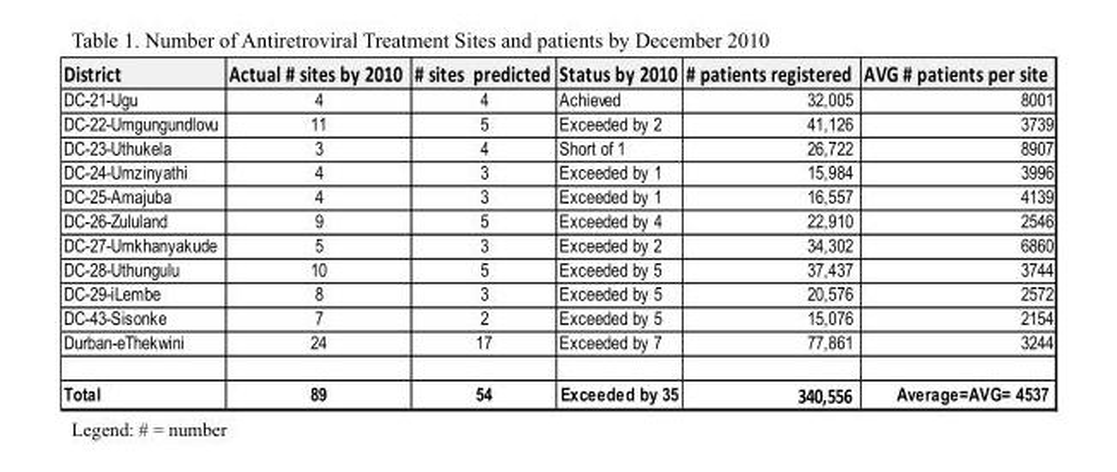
<table><thead><tr><td>District</td><td>Actual # sites by 2010</td><td># sites predicted</td><td>Status by 2010</td><td># patients registered</td><td>AVG # patients per site</td></tr></thead><tbody><tr><td>DC-21-Ugu</td><td>4</td><td>4</td><td>Achieved</td><td>32,005</td><td>8001</td></tr><tr><td>DC-22-Umgungundlovu</td><td>11</td><td>5</td><td>Exceeded by 2</td><td>41,126</td><td>3739</td></tr><tr><td>DC-23-Uthukela</td><td>3</td><td>4</td><td>Short of 1</td><td>26,722</td><td>8907</td></tr><tr><td>DC-24-Umzinyathi</td><td>4</td><td>3</td><td>Exceeded by 1</td><td>15,984</td><td>3996</td></tr><tr><td>DC-25-Amajuba</td><td>4</td><td>3</td><td>Exceeded by 1</td><td>16,557</td><td>4139</td></tr><tr><td>DC-26-Zululand</td><td>9</td><td>5</td><td>Exceeded by 4</td><td>22,910</td><td>2546</td></tr><tr><td>DC-27-Umkhanyakude</td><td>5</td><td>3</td><td>Exceeded by 2</td><td>34,302</td><td>6860</td></tr><tr><td>DC-28-Uthungulu</td><td>10</td><td>5</td><td>Exceeded by 5</td><td>37,437</td><td>3744</td></tr><tr><td>DC-29-iLembe</td><td>8</td><td>3</td><td>Exceeded by 5</td><td>20,576</td><td>2572</td></tr><tr><td>DC-43-Sisonke</td><td>7</td><td>2</td><td>Exceeded by 5</td><td>15,076</td><td>2154</td></tr><tr><td>Durban-eThekwini</td><td>24</td><td>17</td><td>Exceeded by 7</td><td>77,861</td><td>3244</td></tr><tr><td>Total</td><td>89</td><td>54</td><td>Exceeded by 35</td><td>340,556</td><td>Average=AVG= 4537</td></tr></tbody></table>